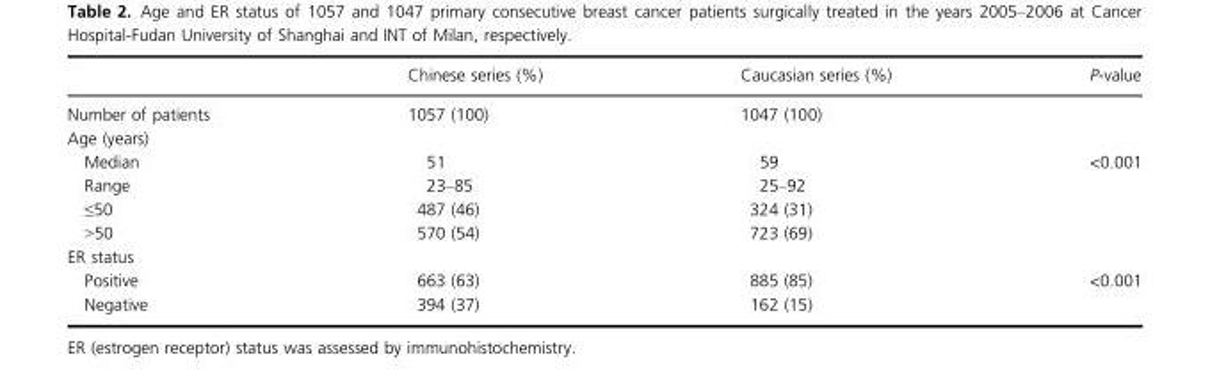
<table><thead><tr><td></td><td>Chinese series (%)</td><td>Caucasian series (%)</td><td>P-value</td></tr></thead><tbody><tr><td>Number of patients</td><td>1057 (100)</td><td>1047 (100)</td><td></td></tr><tr><td colspan="4">Age (years)</td></tr><tr><td>Median</td><td>51</td><td>59</td><td rowspan="4">&lt;0.001</td></tr><tr><td>Range</td><td>23–85</td><td>25–92</td></tr><tr><td>≤50</td><td>487 (46)</td><td>324 (31)</td></tr><tr><td>&gt;50</td><td>570 (54)</td><td>723 (69)</td></tr><tr><td colspan="4">ER status</td></tr><tr><td>Positive</td><td>663 (63)</td><td>885 (85)</td><td rowspan="2">&lt;0.001</td></tr><tr><td>Negative</td><td>394 (37)</td><td>162 (15)</td></tr></tbody></table>